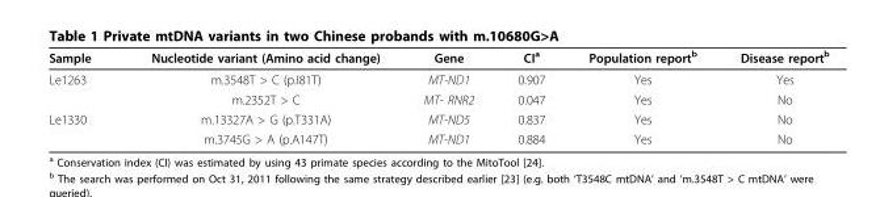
<table><thead><tr><td>Sample</td><td>Nucleotide variant (Amino acid change)</td><td>Gene</td><td>CI<sup>a</sup></td><td>Population report<sup>b</sup></td><td>Disease report<sup>b</sup></td></tr></thead><tbody><tr><td rowspan="2">Le1263</td><td>m.3548T &gt; C (p.I81T)</td><td>MT-ND1</td><td>0.907</td><td>Yes</td><td>Yes</td></tr><tr><td>m.2352T &gt; C</td><td>MT- RNR2</td><td>0.047</td><td>Yes</td><td>No</td></tr><tr><td rowspan="2">Le1330</td><td>m.13327A &gt; G (p.T331A)</td><td>MT-ND5</td><td>0.837</td><td>Yes</td><td>No</td></tr><tr><td>m.3745G &gt; A (p.A147T)</td><td>MT-ND1</td><td>0.884</td><td>Yes</td><td>No</td></tr></tbody></table>